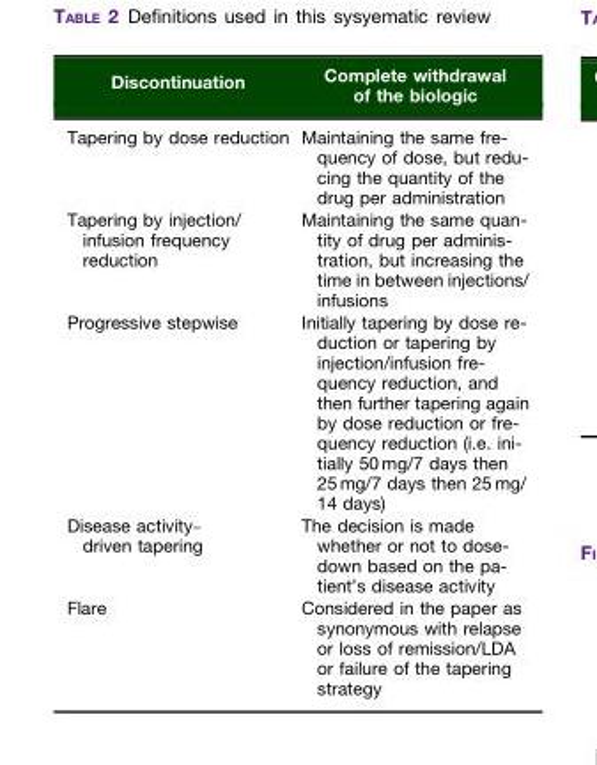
<table><thead><tr><td>Discontinuation</td><td>Complete withdrawal of the biologic</td></tr></thead><tbody><tr><td>Tapering by dose reduction</td><td>Maintaining the same fre- quency of dose, but redu- cing the quantity of the drug per administration</td></tr><tr><td>Tapering by injection/ infusion frequency reduction</td><td>Maintaining the same quan- tity of drug per adminis- tration, but increasing the time in between injections/ infusions</td></tr><tr><td>Progressive stepwise</td><td>Initially tapering by dose re- duction or tapering by injection/infusion fre- quency reduction, and then further tapering again by dose reduction or fre- quency reduction (i.e. ini- tially 50 mg/7 days then 25 mg/7 days then 25 mg/ 14 days)</td></tr><tr><td>Disease activity– driven tapering</td><td>The decision is made whether or not to dose- down based on the pa- tient’s disease activity</td></tr><tr><td>Flare</td><td>Considered in the paper as synonymous with relapse or loss of remission/LDA or failure of the tapering strategy</td></tr></tbody></table>